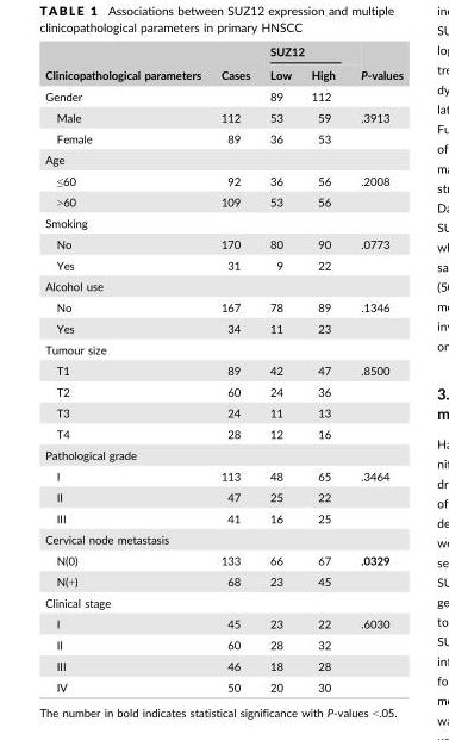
<table><thead><tr><td rowspan="2">Clinicopathological parameters</td><td rowspan="2">Cases</td><td colspan="2">SUZ12</td><td rowspan="2">P-values</td></tr><tr><td>Low</td><td>High</td></tr></thead><tbody><tr><td>Gender</td><td></td><td>89</td><td>112</td><td></td></tr><tr><td>Male</td><td>112</td><td>53</td><td>59</td><td>.3913</td></tr><tr><td>Female</td><td>89</td><td>36</td><td>53</td><td></td></tr><tr><td colspan="5">Age</td></tr><tr><td>≤60</td><td>92</td><td>36</td><td>56</td><td>.2008</td></tr><tr><td>&gt;60</td><td>109</td><td>53</td><td>56</td><td></td></tr><tr><td colspan="5">Smoking</td></tr><tr><td>No</td><td>170</td><td>80</td><td>90</td><td>.0773</td></tr><tr><td>Yes</td><td>31</td><td>9</td><td>22</td><td></td></tr><tr><td colspan="5">Alcohol use</td></tr><tr><td>No</td><td>167</td><td>78</td><td>89</td><td>.1346</td></tr><tr><td>Yes</td><td>34</td><td>11</td><td>23</td><td></td></tr><tr><td colspan="5">Tumour size</td></tr><tr><td>T1</td><td>89</td><td>42</td><td>47</td><td>.8500</td></tr><tr><td>T2</td><td>60</td><td>24</td><td>36</td><td></td></tr><tr><td>T3</td><td>24</td><td>11</td><td>13</td><td></td></tr><tr><td>T4</td><td>28</td><td>12</td><td>16</td><td></td></tr><tr><td colspan="5">Pathological grade</td></tr><tr><td>I</td><td>113</td><td>48</td><td>65</td><td>.3464</td></tr><tr><td>II</td><td>47</td><td>25</td><td>22</td><td></td></tr><tr><td>III</td><td>41</td><td>16</td><td>25</td><td></td></tr><tr><td colspan="5">Cervical node metastasis</td></tr><tr><td>N(0)</td><td>133</td><td>66</td><td>67</td><td>.0329</td></tr><tr><td>N(+)</td><td>68</td><td>23</td><td>45</td><td></td></tr><tr><td colspan="5">Clinical stage</td></tr><tr><td>I</td><td>45</td><td>23</td><td>22</td><td>.6030</td></tr><tr><td>II</td><td>60</td><td>28</td><td>32</td><td></td></tr><tr><td>III</td><td>46</td><td>18</td><td>28</td><td></td></tr><tr><td>IV</td><td>50</td><td>20</td><td>30</td><td></td></tr></tbody></table>